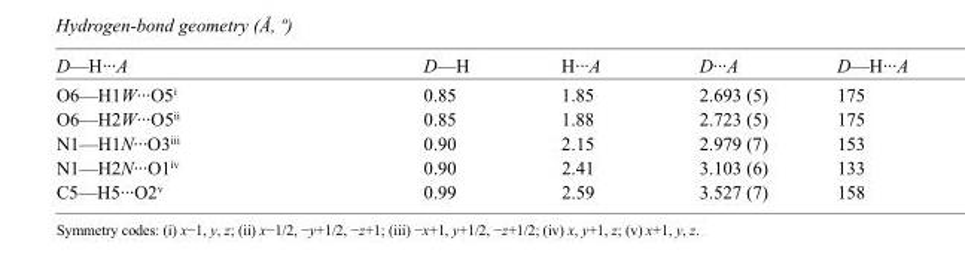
<table><tbody><tr><td>D—H···A</td><td>D—H</td><td>H···A</td><td>D···A</td><td>D—H···A</td></tr><tr><td>O6—H1W···O5<sup>i</sup></td><td>0.85</td><td>1.85</td><td>2.693 (5)</td><td>175</td></tr><tr><td>O6—H2W···O5<sup>ii</sup></td><td>0.85</td><td>1.88</td><td>2.723 (5)</td><td>175</td></tr><tr><td>N1—H1N···O3<sup>iii</sup></td><td>0.90</td><td>2.15</td><td>2.979 (7)</td><td>153</td></tr><tr><td>N1—H2N···O1<sup>iv</sup></td><td>0.90</td><td>2.41</td><td>3.103 (6)</td><td>133</td></tr><tr><td>C5—H5···O2<sup>v</sup></td><td>0.99</td><td>2.59</td><td>3.527 (7)</td><td>158</td></tr></tbody></table>